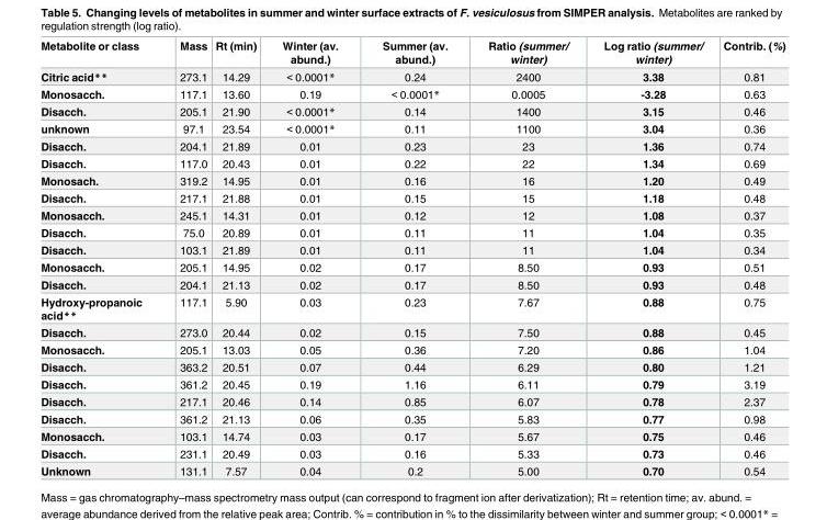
<table><thead><tr><td>Metabolite or class</td><td>Mass</td><td>Rt (min)</td><td>Winter (av. abund.)</td><td>Summer (av. abund.)</td><td>Ratio (summer/ winter)</td><td>Log ratio (summer/ winter)</td><td>Contrib. (%)</td></tr></thead><tbody><tr><td>Citric acid**</td><td>273.1</td><td>14.29</td><td>&lt; 0.0001*</td><td>0.24</td><td>2400</td><td>3.38</td><td>0.81</td></tr><tr><td>Monosacch.</td><td>117.1</td><td>13.60</td><td>0.19</td><td>&lt; 0.0001*</td><td>0.0005</td><td>-3.28</td><td>0.63</td></tr><tr><td>Disacch.</td><td>205.1</td><td>21.90</td><td>&lt; 0.0001*</td><td>0.14</td><td>1400</td><td>3.15</td><td>0.46</td></tr><tr><td>unknown</td><td>97.1</td><td>23.54</td><td>&lt; 0.0001*</td><td>0.11</td><td>1100</td><td>3.04</td><td>0.36</td></tr><tr><td>Disacch.</td><td>204.1</td><td>21.89</td><td>0.01</td><td>0.23</td><td>23</td><td>1.36</td><td>0.74</td></tr><tr><td>Disacch.</td><td>117.0</td><td>20.43</td><td>0.01</td><td>0.22</td><td>22</td><td>1.34</td><td>0.69</td></tr><tr><td>Monosach.</td><td>319.2</td><td>14.95</td><td>0.01</td><td>0.16</td><td>16</td><td>1.20</td><td>0.49</td></tr><tr><td>Disacch.</td><td>217.1</td><td>21.88</td><td>0.01</td><td>0.15</td><td>15</td><td>1.18</td><td>0.48</td></tr><tr><td>Monosacch.</td><td>245.1</td><td>14.31</td><td>0.01</td><td>0.12</td><td>12</td><td>1.08</td><td>0.37</td></tr><tr><td>Disacch.</td><td>75.0</td><td>20.89</td><td>0.01</td><td>0.11</td><td>11</td><td>1.04</td><td>0.35</td></tr><tr><td>Disacch.</td><td>103.1</td><td>21.89</td><td>0.01</td><td>0.11</td><td>11</td><td>1.04</td><td>0.34</td></tr><tr><td>Monosacch.</td><td>205.1</td><td>14.95</td><td>0.02</td><td>0.17</td><td>8.50</td><td>0.93</td><td>0.51</td></tr><tr><td>Disacch.</td><td>204.1</td><td>21.13</td><td>0.02</td><td>0.17</td><td>8.50</td><td>0.93</td><td>0.48</td></tr><tr><td>Hydroxy-propanoic acid**</td><td>117.1</td><td>5.90</td><td>0.03</td><td>0.23</td><td>7.67</td><td>0.88</td><td>0.75</td></tr><tr><td>Disacch.</td><td>273.0</td><td>20.44</td><td>0.02</td><td>0.15</td><td>7.50</td><td>0.88</td><td>0.45</td></tr><tr><td>Monosacch.</td><td>205.1</td><td>13.03</td><td>0.05</td><td>0.36</td><td>7.20</td><td>0.86</td><td>1.04</td></tr><tr><td>Disacch.</td><td>363.2</td><td>20.51</td><td>0.07</td><td>0.44</td><td>6.29</td><td>0.80</td><td>1.21</td></tr><tr><td>Disacch.</td><td>361.2</td><td>20.45</td><td>0.19</td><td>1.16</td><td>6.11</td><td>0.79</td><td>3.19</td></tr><tr><td>Disacch.</td><td>217.1</td><td>20.46</td><td>0.14</td><td>0.85</td><td>6.07</td><td>0.78</td><td>2.37</td></tr><tr><td>Disacch.</td><td>361.2</td><td>21.13</td><td>0.06</td><td>0.35</td><td>5.83</td><td>0.77</td><td>0.98</td></tr><tr><td>Monosacch.</td><td>103.1</td><td>14.74</td><td>0.03</td><td>0.17</td><td>5.67</td><td>0.75</td><td>0.46</td></tr><tr><td>Disacch.</td><td>231.1</td><td>20.49</td><td>0.03</td><td>0.16</td><td>5.33</td><td>0.73</td><td>0.46</td></tr><tr><td>Unknown</td><td>131.1</td><td>7.57</td><td>0.04</td><td>0.2</td><td>5.00</td><td>0.70</td><td>0.54</td></tr></tbody></table>